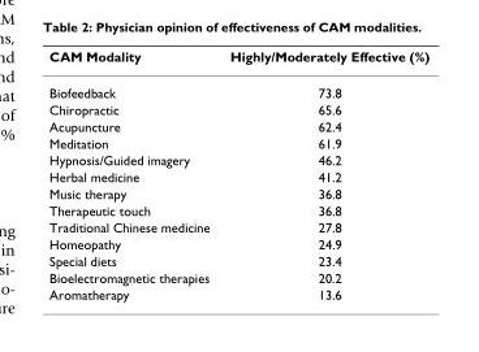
<table><thead><tr><td>CAM Modality</td><td>Highly/Moderately Effective (%)</td></tr></thead><tbody><tr><td>Biofeedback</td><td>73.8</td></tr><tr><td>Chiropractic</td><td>65.6</td></tr><tr><td>Acupuncture</td><td>62.4</td></tr><tr><td>Meditation</td><td>61.9</td></tr><tr><td>Hypnosis/Guided imagery</td><td>46.2</td></tr><tr><td>Herbal medicine</td><td>41.2</td></tr><tr><td>Music therapy</td><td>36.8</td></tr><tr><td>Therapeutic touch</td><td>36.8</td></tr><tr><td>Traditional Chinese medicine</td><td>27.8</td></tr><tr><td>Homeopathy</td><td>24.9</td></tr><tr><td>Special diets</td><td>23.4</td></tr><tr><td>Bioelectromagnetic therapies</td><td>20.2</td></tr><tr><td>Aromatherapy</td><td>13.6</td></tr></tbody></table>